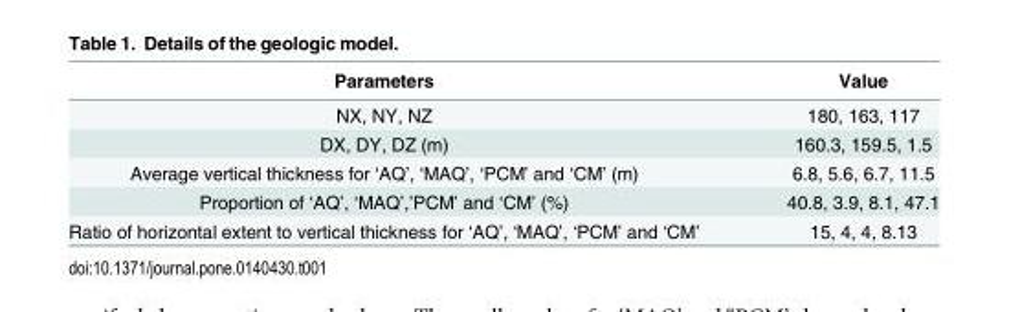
<table><thead><tr><td>Parameters</td><td>Value</td></tr></thead><tbody><tr><td>NX, NY, NZ</td><td>180, 163, 117</td></tr><tr><td>DX, DY, DZ (m)</td><td>160.3, 159.5, 1.5</td></tr><tr><td>Average vertical thickness for ‘AQ’, ‘MAQ’, ‘PCM’ and ‘CM’ (m)</td><td>6.8, 5.6, 6.7, 11.5</td></tr><tr><td>Proportion of ‘AQ’, ‘MAQ’,’PCM’ and ‘CM’ (%)</td><td>40.8, 3.9, 8.1, 47.1</td></tr><tr><td>Ratio of horizontal extent to vertical thickness for ‘AQ’, ‘MAQ’, ‘PCM’ and ‘CM’</td><td>15, 4, 4, 8.13</td></tr></tbody></table>